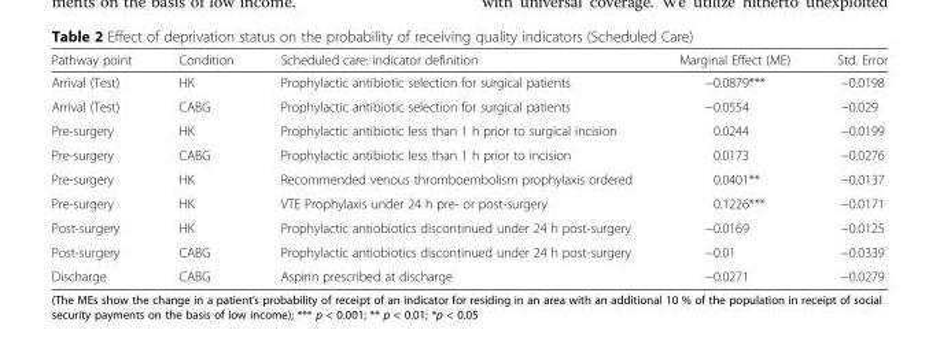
<table><thead><tr><td>Pathway point</td><td>Condition</td><td>Scheduled care: indicator definition</td><td>Marginal Effect (ME)</td><td>Std. Error</td></tr></thead><tbody><tr><td>Arrival (Test)</td><td>HK</td><td>Prophylactic antibiotic selection for surgical patients</td><td>−0.0879***</td><td>−0.0198</td></tr><tr><td>Arrival (Test)</td><td>CABG</td><td>Prophylactic antibiotic selection for surgical patients</td><td>−0.0554</td><td>−0.029</td></tr><tr><td>Pre-surgery</td><td>HK</td><td>Prophylactic antibiotic less than 1 h prior to surgical incision</td><td>0.0244</td><td>−0.0199</td></tr><tr><td>Pre-surgery</td><td>CABG</td><td>Prophylactic antibiotic less than 1 h prior to incision</td><td>0.0173</td><td>−0.0276</td></tr><tr><td>Pre-surgery</td><td>HK</td><td>Recommended venous thromboembolism prophylaxis ordered</td><td>0.0401**</td><td>−0.0137</td></tr><tr><td>Pre-surgery</td><td>HK</td><td>VTE Prophylaxis under 24 h pre- or post-surgery</td><td>0.1226***</td><td>−0.0171</td></tr><tr><td>Post-surgery</td><td>HK</td><td>Prophylactic antiobiotics discontinued under 24 h post-surgery</td><td>−0.0169</td><td>−0.0125</td></tr><tr><td>Post-surgery</td><td>CABG</td><td>Prophylactic antiobiotics discontinued under 24 h post-surgery</td><td>−0.01</td><td>−0.0339</td></tr><tr><td>Discharge</td><td>CABG</td><td>Aspirin prescribed at discharge</td><td>−0.0271</td><td>−0.0279</td></tr></tbody></table>